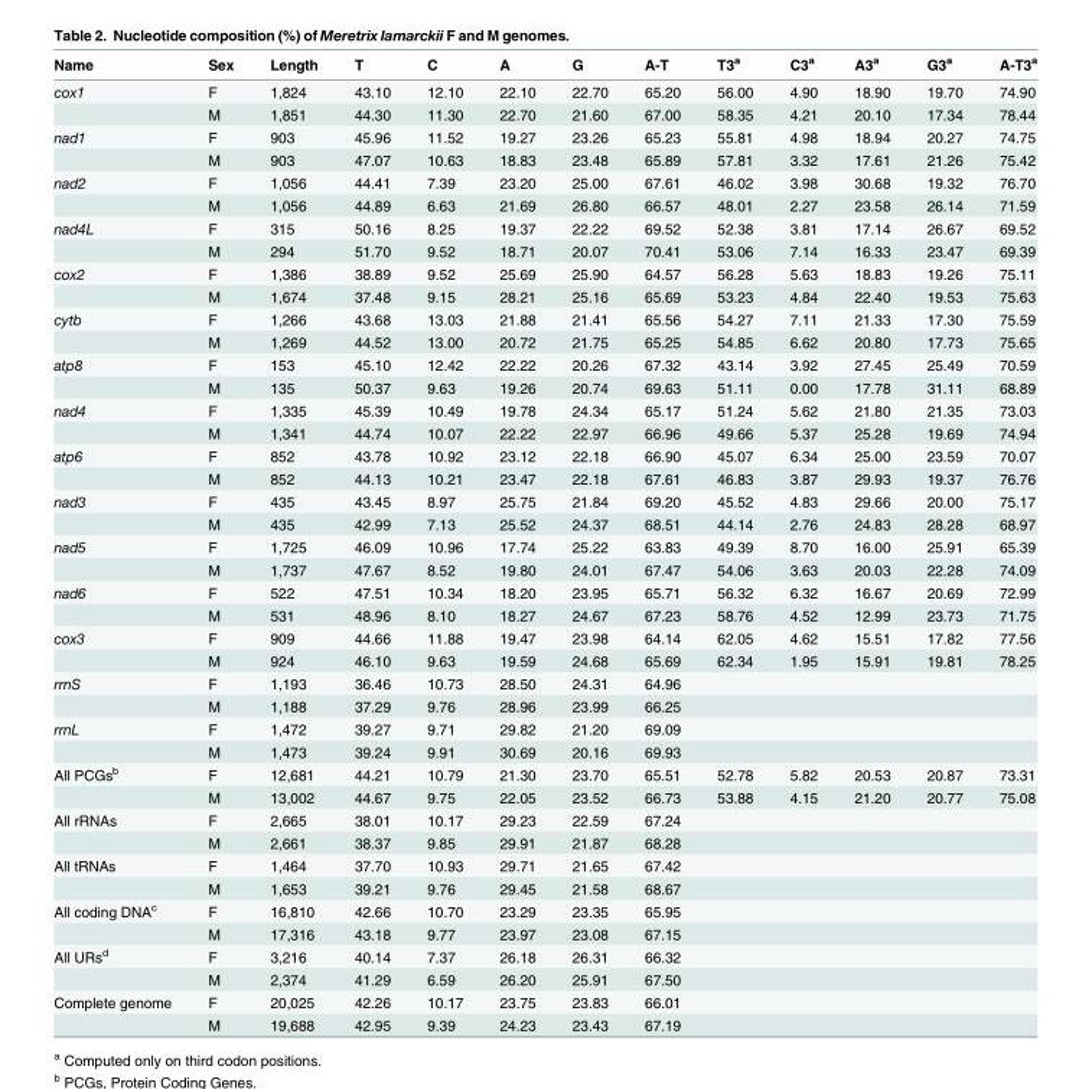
<table><thead><tr><td>Name</td><td>Sex</td><td>Length</td><td>T</td><td>C</td><td>A</td><td>G</td><td>A-T</td><td>T3<sup>a</sup></td><td>C3<sup>a</sup></td><td>A3<sup>a</sup></td><td>G3<sup>a</sup></td><td>A-T3<sup>a</sup></td></tr></thead><tbody><tr><td rowspan="2">cox1</td><td>F</td><td>1,824</td><td>43.10</td><td>12.10</td><td>22.10</td><td>22.70</td><td>65.20</td><td>56.00</td><td>4.90</td><td>18.90</td><td>19.70</td><td>74.90</td></tr><tr><td>M</td><td>1,851</td><td>44.30</td><td>11.30</td><td>22.70</td><td>21.60</td><td>67.00</td><td>58.35</td><td>4.21</td><td>20.10</td><td>17.34</td><td>78.44</td></tr><tr><td rowspan="2">nad1</td><td>F</td><td>903</td><td>45.96</td><td>11.52</td><td>19.27</td><td>23.26</td><td>65.23</td><td>55.81</td><td>4.98</td><td>18.94</td><td>20.27</td><td>74.75</td></tr><tr><td>M</td><td>903</td><td>47.07</td><td>10.63</td><td>18.83</td><td>23.48</td><td>65.89</td><td>57.81</td><td>3.32</td><td>17.61</td><td>21.26</td><td>75.42</td></tr><tr><td rowspan="2">nad2</td><td>F</td><td>1,056</td><td>44.41</td><td>7.39</td><td>23.20</td><td>25.00</td><td>67.61</td><td>46.02</td><td>3.98</td><td>30.68</td><td>19.32</td><td>76.70</td></tr><tr><td>M</td><td>1,056</td><td>44.89</td><td>6.63</td><td>21.69</td><td>26.80</td><td>66.57</td><td>48.01</td><td>2.27</td><td>23.58</td><td>26.14</td><td>71.59</td></tr><tr><td rowspan="2">nad4L</td><td>F</td><td>315</td><td>50.16</td><td>8.25</td><td>19.37</td><td>22.22</td><td>69.52</td><td>52.38</td><td>3.81</td><td>17.14</td><td>26.67</td><td>69.52</td></tr><tr><td>M</td><td>294</td><td>51.70</td><td>9.52</td><td>18.71</td><td>20.07</td><td>70.41</td><td>53.06</td><td>7.14</td><td>16.33</td><td>23.47</td><td>69.39</td></tr><tr><td rowspan="2">cox2</td><td>F</td><td>1,386</td><td>38.89</td><td>9.52</td><td>25.69</td><td>25.90</td><td>64.57</td><td>56.28</td><td>5.63</td><td>18.83</td><td>19.26</td><td>75.11</td></tr><tr><td>M</td><td>1,674</td><td>37.48</td><td>9.15</td><td>28.21</td><td>25.16</td><td>65.69</td><td>53.23</td><td>4.84</td><td>22.40</td><td>19.53</td><td>75.63</td></tr><tr><td rowspan="2">cytb</td><td>F</td><td>1,266</td><td>43.68</td><td>13.03</td><td>21.88</td><td>21.41</td><td>65.56</td><td>54.27</td><td>7.11</td><td>21.33</td><td>17.30</td><td>75.59</td></tr><tr><td>M</td><td>1,269</td><td>44.52</td><td>13.00</td><td>20.72</td><td>21.75</td><td>65.25</td><td>54.85</td><td>6.62</td><td>20.80</td><td>17.73</td><td>75.65</td></tr><tr><td rowspan="2">atp8</td><td>F</td><td>153</td><td>45.10</td><td>12.42</td><td>22.22</td><td>20.26</td><td>67.32</td><td>43.14</td><td>3.92</td><td>27.45</td><td>25.49</td><td>70.59</td></tr><tr><td>M</td><td>135</td><td>50.37</td><td>9.63</td><td>19.26</td><td>20.74</td><td>69.63</td><td>51.11</td><td>0.00</td><td>17.78</td><td>31.11</td><td>68.89</td></tr><tr><td rowspan="2">nad4</td><td>F</td><td>1,335</td><td>45.39</td><td>10.49</td><td>19.78</td><td>24.34</td><td>65.17</td><td>51.24</td><td>5.62</td><td>21.80</td><td>21.35</td><td>73.03</td></tr><tr><td>M</td><td>1,341</td><td>44.74</td><td>10.07</td><td>22.22</td><td>22.97</td><td>66.96</td><td>49.66</td><td>5.37</td><td>25.28</td><td>19.69</td><td>74.94</td></tr><tr><td rowspan="2">atp6</td><td>F</td><td>852</td><td>43.78</td><td>10.92</td><td>23.12</td><td>22.18</td><td>66.90</td><td>45.07</td><td>6.34</td><td>25.00</td><td>23.59</td><td>70.07</td></tr><tr><td>M</td><td>852</td><td>44.13</td><td>10.21</td><td>23.47</td><td>22.18</td><td>67.61</td><td>46.83</td><td>3.87</td><td>29.93</td><td>19.37</td><td>76.76</td></tr><tr><td rowspan="2">nad3</td><td>F</td><td>435</td><td>43.45</td><td>8.97</td><td>25.75</td><td>21.84</td><td>69.20</td><td>45.52</td><td>4.83</td><td>29.66</td><td>20.00</td><td>75.17</td></tr><tr><td>M</td><td>435</td><td>42.99</td><td>7.13</td><td>25.52</td><td>24.37</td><td>68.51</td><td>44.14</td><td>2.76</td><td>24.83</td><td>28.28</td><td>68.97</td></tr><tr><td rowspan="2">nad5</td><td>F</td><td>1,725</td><td>46.09</td><td>10.96</td><td>17.74</td><td>25.22</td><td>63.83</td><td>49.39</td><td>8.70</td><td>16.00</td><td>25.91</td><td>65.39</td></tr><tr><td>M</td><td>1,737</td><td>47.67</td><td>8.52</td><td>19.80</td><td>24.01</td><td>67.47</td><td>54.06</td><td>3.63</td><td>20.03</td><td>22.28</td><td>74.09</td></tr><tr><td rowspan="2">nad6</td><td>F</td><td>522</td><td>47.51</td><td>10.34</td><td>18.20</td><td>23.95</td><td>65.71</td><td>56.32</td><td>6.32</td><td>16.67</td><td>20.69</td><td>72.99</td></tr><tr><td>M</td><td>531</td><td>48.96</td><td>8.10</td><td>18.27</td><td>24.67</td><td>67.23</td><td>58.76</td><td>4.52</td><td>12.99</td><td>23.73</td><td>71.75</td></tr><tr><td rowspan="2">cox3</td><td>F</td><td>909</td><td>44.66</td><td>11.88</td><td>19.47</td><td>23.98</td><td>64.14</td><td>62.05</td><td>4.62</td><td>15.51</td><td>17.82</td><td>77.56</td></tr><tr><td>M</td><td>924</td><td>46.10</td><td>9.63</td><td>19.59</td><td>24.68</td><td>65.69</td><td>62.34</td><td>1.95</td><td>15.91</td><td>19.81</td><td>78.25</td></tr><tr><td rowspan="2">rrnS</td><td>F</td><td>1,193</td><td>36.46</td><td>10.73</td><td>28.50</td><td>24.31</td><td>64.96</td><td></td><td></td><td></td><td></td><td></td></tr><tr><td>M</td><td>1,188</td><td>37.29</td><td>9.76</td><td>28.96</td><td>23.99</td><td>66.25</td><td></td><td></td><td></td><td></td><td></td></tr><tr><td rowspan="2">rrnL</td><td>F</td><td>1,472</td><td>39.27</td><td>9.71</td><td>29.82</td><td>21.20</td><td>69.09</td><td></td><td></td><td></td><td></td><td></td></tr><tr><td>M</td><td>1,473</td><td>39.24</td><td>9.91</td><td>30.69</td><td>20.16</td><td>69.93</td><td></td><td></td><td></td><td></td><td></td></tr><tr><td rowspan="2">All PCGs<sup>b</sup></td><td>F</td><td>12,681</td><td>44.21</td><td>10.79</td><td>21.30</td><td>23.70</td><td>65.51</td><td>52.78</td><td>5.82</td><td>20.53</td><td>20.87</td><td>73.31</td></tr><tr><td>M</td><td>13,002</td><td>44.67</td><td>9.75</td><td>22.05</td><td>23.52</td><td>66.73</td><td>53.88</td><td>4.15</td><td>21.20</td><td>20.77</td><td>75.08</td></tr><tr><td rowspan="2">All rRNAs</td><td>F</td><td>2,665</td><td>38.01</td><td>10.17</td><td>29.23</td><td>22.59</td><td>67.24</td><td></td><td></td><td></td><td></td><td></td></tr><tr><td>M</td><td>2,661</td><td>38.37</td><td>9.85</td><td>29.91</td><td>21.87</td><td>68.28</td><td></td><td></td><td></td><td></td><td></td></tr><tr><td rowspan="2">All tRNAs</td><td>F</td><td>1,464</td><td>37.70</td><td>10.93</td><td>29.71</td><td>21.65</td><td>67.42</td><td></td><td></td><td></td><td></td><td></td></tr><tr><td>M</td><td>1,653</td><td>39.21</td><td>9.76</td><td>29.45</td><td>21.58</td><td>68.67</td><td></td><td></td><td></td><td></td><td></td></tr><tr><td rowspan="2">All coding DNA<sup>c</sup></td><td>F</td><td>16,810</td><td>42.66</td><td>10.70</td><td>23.29</td><td>23.35</td><td>65.95</td><td></td><td></td><td></td><td></td><td></td></tr><tr><td>M</td><td>17,316</td><td>43.18</td><td>9.77</td><td>23.97</td><td>23.08</td><td>67.15</td><td></td><td></td><td></td><td></td><td></td></tr><tr><td rowspan="2">All URs<sup>d</sup></td><td>F</td><td>3,216</td><td>40.14</td><td>7.37</td><td>26.18</td><td>26.31</td><td>66.32</td><td></td><td></td><td></td><td></td><td></td></tr><tr><td>M</td><td>2,374</td><td>41.29</td><td>6.59</td><td>26.20</td><td>25.91</td><td>67.50</td><td></td><td></td><td></td><td></td><td></td></tr><tr><td rowspan="2">Complete genome</td><td>F</td><td>20,025</td><td>42.26</td><td>10.17</td><td>23.75</td><td>23.83</td><td>66.01</td><td></td><td></td><td></td><td></td><td></td></tr><tr><td>M</td><td>19,688</td><td>42.95</td><td>9.39</td><td>24.23</td><td>23.43</td><td>67.19</td><td></td><td></td><td></td><td></td><td></td></tr></tbody></table>